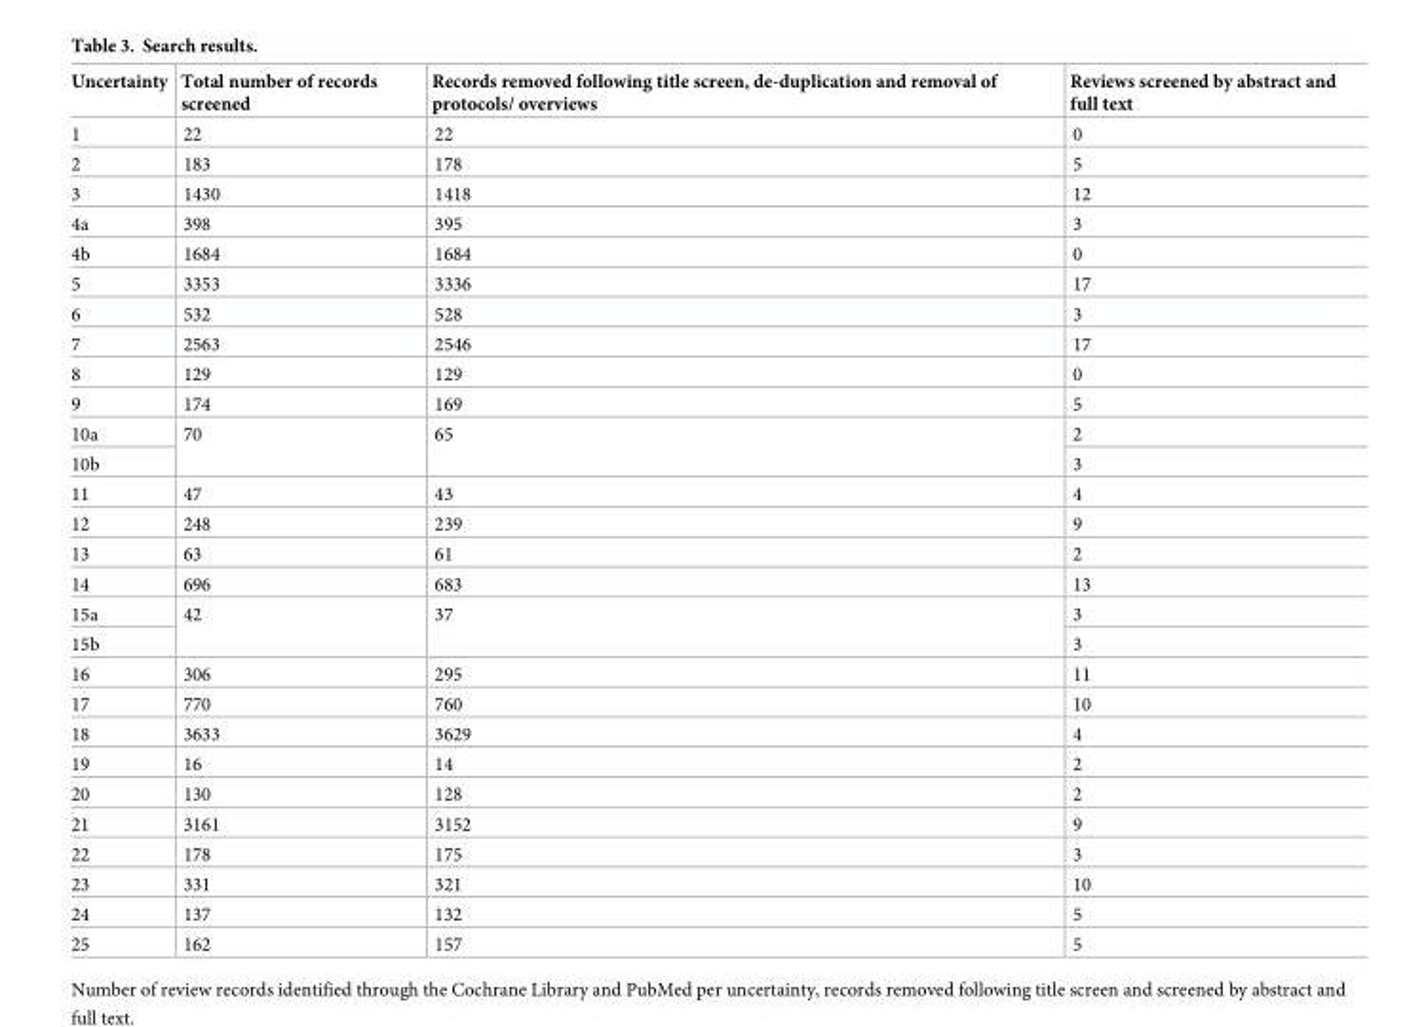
<table><thead><tr><td>Uncertainty</td><td>Total number of records screened</td><td>Records removed following title screen, de-duplication and removal of protocols/ overviews</td><td>Reviews screened by abstract and full text</td></tr></thead><tbody><tr><td>1</td><td>22</td><td>22</td><td>0</td></tr><tr><td>2</td><td>183</td><td>178</td><td>5</td></tr><tr><td>3</td><td>1430</td><td>1418</td><td>12</td></tr><tr><td>4a</td><td>398</td><td>395</td><td>3</td></tr><tr><td>4b</td><td>1684</td><td>1684</td><td>0</td></tr><tr><td>5</td><td>3353</td><td>3336</td><td>17</td></tr><tr><td>6</td><td>532</td><td>528</td><td>3</td></tr><tr><td>7</td><td>2563</td><td>2546</td><td>17</td></tr><tr><td>8</td><td>129</td><td>129</td><td>0</td></tr><tr><td>9</td><td>174</td><td>169</td><td>5</td></tr><tr><td>10a</td><td rowspan="2">70</td><td rowspan="2">65</td><td>2</td></tr><tr><td>10b</td><td>3</td></tr><tr><td>11</td><td>47</td><td>43</td><td>4</td></tr><tr><td>12</td><td>248</td><td>239</td><td>9</td></tr><tr><td>13</td><td>63</td><td>61</td><td>2</td></tr><tr><td>14</td><td>696</td><td>683</td><td>13</td></tr><tr><td>15a</td><td rowspan="2">42</td><td rowspan="2">37</td><td>3</td></tr><tr><td>15b</td><td>3</td></tr><tr><td>16</td><td>306</td><td>295</td><td>11</td></tr><tr><td>17</td><td>770</td><td>760</td><td>10</td></tr><tr><td>18</td><td>3633</td><td>3629</td><td>4</td></tr><tr><td>19</td><td>16</td><td>14</td><td>2</td></tr><tr><td>20</td><td>130</td><td>128</td><td>2</td></tr><tr><td>21</td><td>3161</td><td>3152</td><td>9</td></tr><tr><td>22</td><td>178</td><td>175</td><td>3</td></tr><tr><td>23</td><td>331</td><td>321</td><td>10</td></tr><tr><td>24</td><td>137</td><td>132</td><td>5</td></tr><tr><td>25</td><td>162</td><td>157</td><td>5</td></tr></tbody></table>